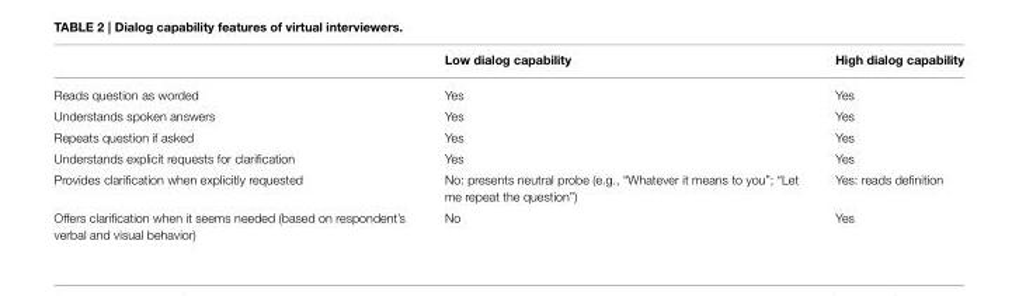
<table><thead><tr><td></td><td>Low dialog capability</td><td>High dialog capability</td></tr></thead><tbody><tr><td>Reads question as worded</td><td>Yes</td><td>Yes</td></tr><tr><td>Understands spoken answers</td><td>Yes</td><td>Yes</td></tr><tr><td>Repeats question if asked</td><td>Yes</td><td>Yes</td></tr><tr><td>Understands explicit requests for clarification</td><td>Yes</td><td>Yes</td></tr><tr><td>Provides clarification when explicitly requested</td><td>No: presents neutral probe (e.g., “Whatever it means to you”; “Let me repeat the question”)</td><td>Yes: reads definition</td></tr><tr><td>Offers clarification when it seems needed (based on respondent’s verbal and visual behavior)</td><td>No</td><td>Yes</td></tr></tbody></table>